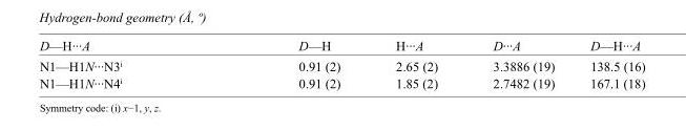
<table><tbody><tr><td>D—H···A</td><td>D—H</td><td>H···A</td><td>D···A</td><td>D—H···A</td></tr><tr><td>N1—H1N···N3<sup>i</sup></td><td>0.91 (2)</td><td>2.65 (2)</td><td>3.3886 (19)</td><td>138.5 (16)</td></tr><tr><td>N1—H1N···N4<sup>i</sup></td><td>0.91 (2)</td><td>1.85 (2)</td><td>2.7482 (19)</td><td>167.1 (18)</td></tr></tbody></table>